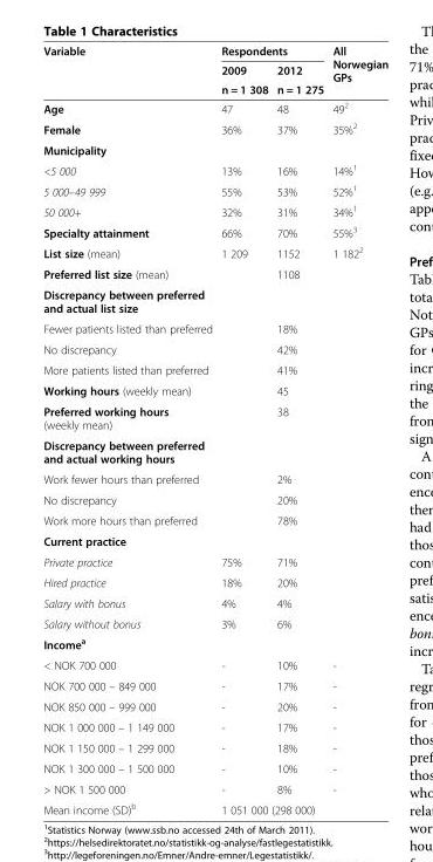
<table><thead><tr><td rowspan="3">Variable</td><td colspan="2">Respondents</td><td rowspan="3">All Norwegian GPs</td></tr><tr><td rowspan="2">2009 n = 1 308</td><td rowspan="2">2012 n = 1 275</td></tr><tr></tr></thead><tbody><tr><td>Age</td><td>47</td><td>48</td><td>49<sup>2</sup></td></tr><tr><td>Female</td><td>36%</td><td>37%</td><td>35%<sup>2</sup></td></tr><tr><td colspan="4">Municipality</td></tr><tr><td>&lt;5 000</td><td>13%</td><td>16%</td><td>14%<sup>1</sup></td></tr><tr><td>5 000–49 999</td><td>55%</td><td>53%</td><td>52%<sup>1</sup></td></tr><tr><td>50 000+</td><td>32%</td><td>31%</td><td>34%<sup>1</sup></td></tr><tr><td>Specialty attainment</td><td>66%</td><td>70%</td><td>55%<sup>3</sup></td></tr><tr><td>List size (mean)</td><td>1 209</td><td>1152</td><td>1 182<sup>2</sup></td></tr><tr><td>Preferred list size (mean)</td><td></td><td>1108</td><td></td></tr><tr><td colspan="4">Discrepancy between preferred and actual list size</td></tr><tr><td>Fewer patients listed than preferred</td><td></td><td>18%</td><td></td></tr><tr><td>No discrepancy</td><td></td><td>42%</td><td></td></tr><tr><td>More patients listed than preferred</td><td></td><td>41%</td><td></td></tr><tr><td>Working hours (weekly mean)</td><td></td><td>45</td><td></td></tr><tr><td>Preferred working hours (weekly mean)</td><td></td><td>38</td><td></td></tr><tr><td colspan="4">Discrepancy between preferred and actual working hours</td></tr><tr><td>Work fewer hours than preferred</td><td></td><td>2%</td><td></td></tr><tr><td>No discrepancy</td><td></td><td>20%</td><td></td></tr><tr><td>Work more hours than preferred</td><td></td><td>78%</td><td></td></tr><tr><td colspan="4">Current practice</td></tr><tr><td>Private practice</td><td>75%</td><td>71%</td><td></td></tr><tr><td>Hired practice</td><td>18%</td><td>20%</td><td></td></tr><tr><td>Salary with bonus</td><td>4%</td><td>4%</td><td></td></tr><tr><td>Salary without bonus</td><td>3%</td><td>6%</td><td></td></tr><tr><td colspan="4">Income<sup>a</sup></td></tr><tr><td>&lt; NOK 700 000</td><td>-</td><td>10%</td><td>-</td></tr><tr><td>NOK 700 000 – 849 000</td><td>-</td><td>17%</td><td>-</td></tr><tr><td>NOK 850 000 – 999 000</td><td>-</td><td>20%</td><td>-</td></tr><tr><td>NOK 1 000 000 – 1 149 000</td><td>-</td><td>17%</td><td>-</td></tr><tr><td>NOK 1 150 000 – 1 299 000</td><td>-</td><td>18%</td><td>-</td></tr><tr><td>NOK 1 300 000 – 1 500 000</td><td>-</td><td>10%</td><td>-</td></tr><tr><td>&gt; NOK 1 500 000</td><td>-</td><td>8%</td><td>-</td></tr><tr><td>Mean income (SD)<sup>b</sup></td><td colspan="3">1 051 000 (298 000)</td></tr></tbody></table>